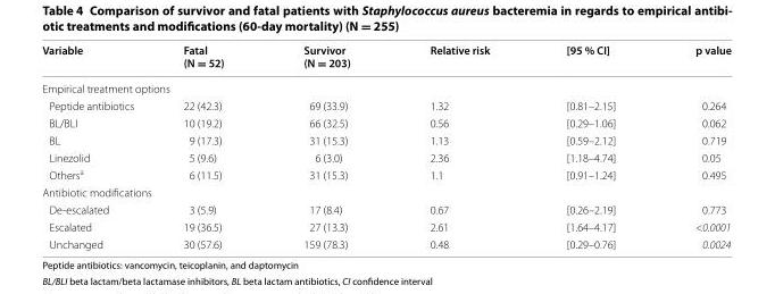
<table><thead><tr><td>Variable</td><td>Fatal (N = 52)</td><td>Survivor (N = 203)</td><td>Relative risk</td><td>[95 % CI]</td><td>p value</td></tr></thead><tbody><tr><td colspan="6">Empirical treatment options</td></tr><tr><td>Peptide antibiotics</td><td>22 (42.3)</td><td>69 (33.9)</td><td>1.32</td><td>[0.81–2.15]</td><td>0.264</td></tr><tr><td>BL/BLI</td><td>10 (19.2)</td><td>66 (32.5)</td><td>0.56</td><td>[0.29–1.06]</td><td>0.062</td></tr><tr><td>BL</td><td>9 (17.3)</td><td>31 (15.3)</td><td>1.13</td><td>[0.59–2.12]</td><td>0.719</td></tr><tr><td>Linezolid</td><td>5 (9.6)</td><td>6 (3.0)</td><td>2.36</td><td>[1.18–4.74]</td><td>0.05</td></tr><tr><td>Others<sup>a</sup></td><td>6 (11.5)</td><td>31 (15.3)</td><td>1.1</td><td>[0.91–1.24]</td><td>0.495</td></tr><tr><td colspan="6">Antibiotic modifications</td></tr><tr><td>De-escalated</td><td>3 (5.9)</td><td>17 (8.4)</td><td>0.67</td><td>[0.26–2.19]</td><td>0.773</td></tr><tr><td>Escalated</td><td>19 (36.5)</td><td>27 (13.3)</td><td>2.61</td><td>[1.64–4.17]</td><td>&lt;0.0001</td></tr><tr><td>Unchanged</td><td>30 (57.6)</td><td>159 (78.3)</td><td>0.48</td><td>[0.29–0.76]</td><td>0.0024</td></tr></tbody></table>